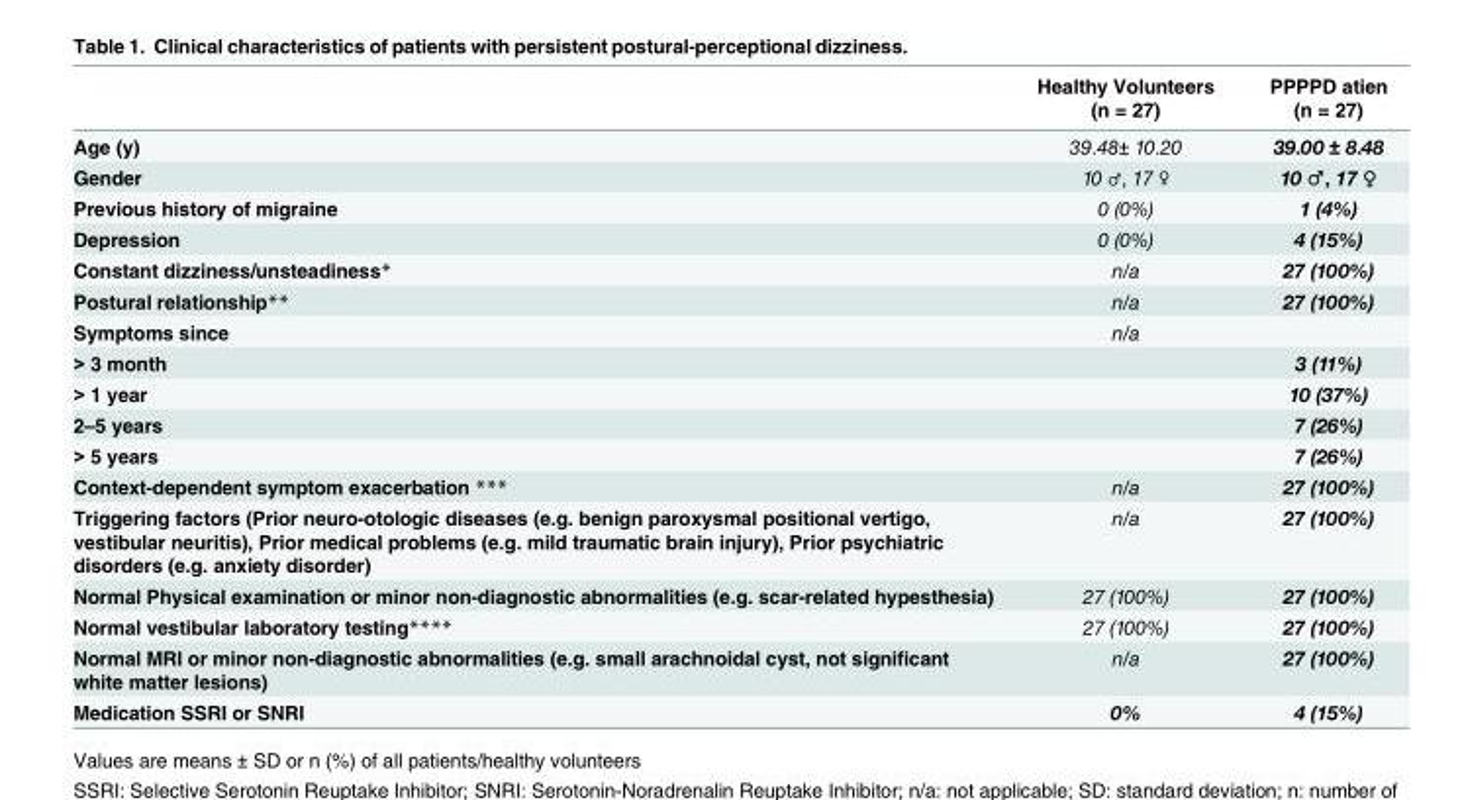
<table><thead><tr><td></td><td>Healthy Volunteers (n = 27)</td><td>PPPPD atien (n = 27)</td></tr></thead><tbody><tr><td>Age (y)</td><td>39.48± 10.20</td><td>39.00 ± 8.48</td></tr><tr><td>Gender</td><td>10 ♂, 17 ♀</td><td>10 ♂, 17 ♀</td></tr><tr><td>Previous history of migraine</td><td>0 (0%)</td><td>1 (4%)</td></tr><tr><td>Depression</td><td>0 (0%)</td><td>4 (15%)</td></tr><tr><td>Constant dizziness/unsteadiness*</td><td>n/a</td><td>27 (100%)</td></tr><tr><td>Postural relationship**</td><td>n/a</td><td>27 (100%)</td></tr><tr><td>Symptoms since</td><td>n/a</td><td></td></tr><tr><td>&gt; 3 month</td><td></td><td>3 (11%)</td></tr><tr><td>&gt; 1 year</td><td></td><td>10 (37%)</td></tr><tr><td>2–5 years</td><td></td><td>7 (26%)</td></tr><tr><td>&gt; 5 years</td><td></td><td>7 (26%)</td></tr><tr><td>Context-dependent symptom exacerbation ***</td><td>n/a</td><td>27 (100%)</td></tr><tr><td>Triggering factors (Prior neuro-otologic diseases (e.g. benign paroxysmal positional vertigo, vestibular neuritis), Prior medical problems (e.g. mild traumatic brain injury), Prior psychiatric disorders (e.g. anxiety disorder)</td><td>n/a</td><td>27 (100%)</td></tr><tr><td>Normal Physical examination or minor non-diagnostic abnormalities (e.g. scar-related hypesthesia)</td><td>27 (100%)</td><td>27 (100%)</td></tr><tr><td>Normal vestibular laboratory testing****</td><td>27 (100%)</td><td>27 (100%)</td></tr><tr><td>Normal MRI or minor non-diagnostic abnormalities (e.g. small arachnoidal cyst, not significant white matter lesions)</td><td>n/a</td><td>27 (100%)</td></tr><tr><td>Medication SSRI or SNRI</td><td>0%</td><td>4 (15%)</td></tr></tbody></table>